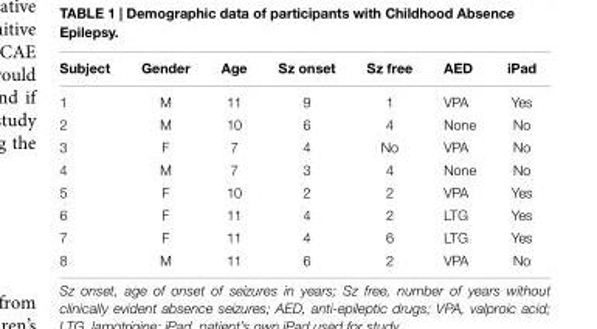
<table><thead><tr><td>Subject</td><td>Gender</td><td>Age</td><td>Sz onset</td><td>Sz free</td><td>AED</td><td>iPad</td></tr></thead><tbody><tr><td>1</td><td>M</td><td>11</td><td>9</td><td>1</td><td>VPA</td><td>Yes</td></tr><tr><td>2</td><td>M</td><td>10</td><td>6</td><td>4</td><td>None</td><td>No</td></tr><tr><td>3</td><td>F</td><td>7</td><td>4</td><td>No</td><td>VPA</td><td>No</td></tr><tr><td>4</td><td>M</td><td>7</td><td>3</td><td>4</td><td>None</td><td>No</td></tr><tr><td>5</td><td>F</td><td>10</td><td>2</td><td>2</td><td>VPA</td><td>Yes</td></tr><tr><td>6</td><td>F</td><td>11</td><td>4</td><td>2</td><td>LTG</td><td>Yes</td></tr><tr><td>7</td><td>F</td><td>11</td><td>4</td><td>6</td><td>LTG</td><td>Yes</td></tr><tr><td>8</td><td>M</td><td>11</td><td>6</td><td>2</td><td>VPA</td><td>No</td></tr></tbody></table>